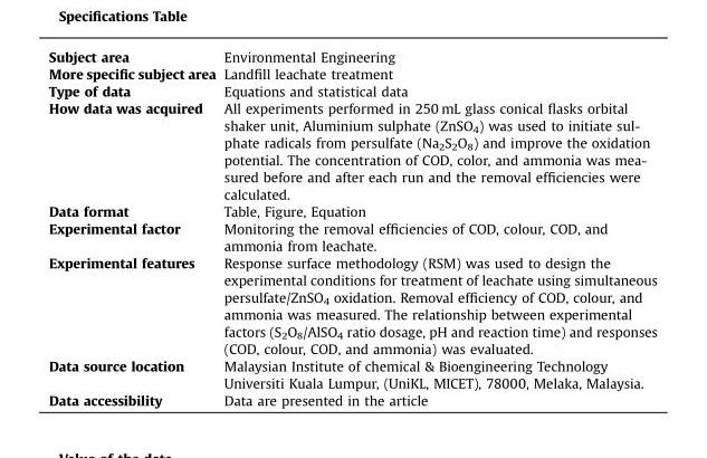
<table><tbody><tr><td>Subject area</td><td>Environmental Engineering</td></tr><tr><td>More specific subject area</td><td>Landfill leachate treatment</td></tr><tr><td>Type of data</td><td>Equations and statistical data</td></tr><tr><td>How data was acquired</td><td>All experiments performed in 250 mL glass conical flasks orbital shaker unit, Aluminium sulphate (ZnSO4) was used to initiate sul- phate radicals from persulfate (Na2S2O8) and improve the oxidation potential. The concentration of COD, color, and ammonia was mea- sured before and after each run and the removal efficiencies were calculated.</td></tr><tr><td>Data format</td><td>Table, Figure, Equation</td></tr><tr><td>Experimental factor</td><td>Monitoring the removal efficiencies of COD, colour, COD, and ammonia from leachate.</td></tr><tr><td>Experimental features</td><td>Response surface methodology (RSM) was used to design the experimental conditions for treatment of leachate using simultaneous persulfate/ZnSO<sub>4</sub> oxidation. Removal efficiency of COD, colour, and ammonia was measured. The relationship between experimental factors (S<sub>2</sub>O<sub>8</sub>/AlSO<sub>4</sub> ratio dosage, pH and reaction time) and responses (COD, colour, COD, and ammonia) was evaluated.</td></tr><tr><td rowspan="2">Data source location</td><td>Malaysian Institute of chemical &amp; Bioengineering Technology</td></tr><tr><td>Universiti Kuala Lumpur, (UniKL, MICET), 78000, Melaka, Malaysia.</td></tr><tr><td>Data accessibility</td><td>Data are presented in the article</td></tr></tbody></table>